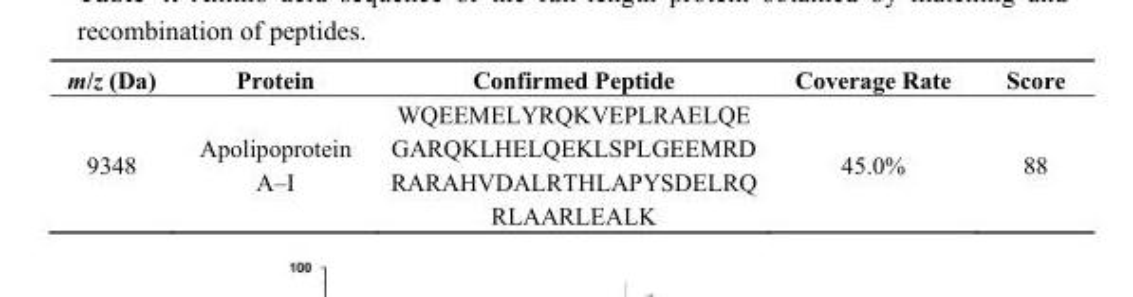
<table><thead><tr><td>m/z (Da)</td><td>Protein</td><td>Confirmed Peptide</td><td>Coverage Rate</td><td>Score</td></tr></thead><tbody><tr><td>9348</td><td>Apolipoprotein A–I</td><td>WQEEMELYRQKVEPLRAELQE GARQKLHELQEKLSPLGEEMRD RARAHVDALRTHLAPYSDELRQ RLAARLEALK</td><td>45.0%</td><td>88</td></tr></tbody></table>